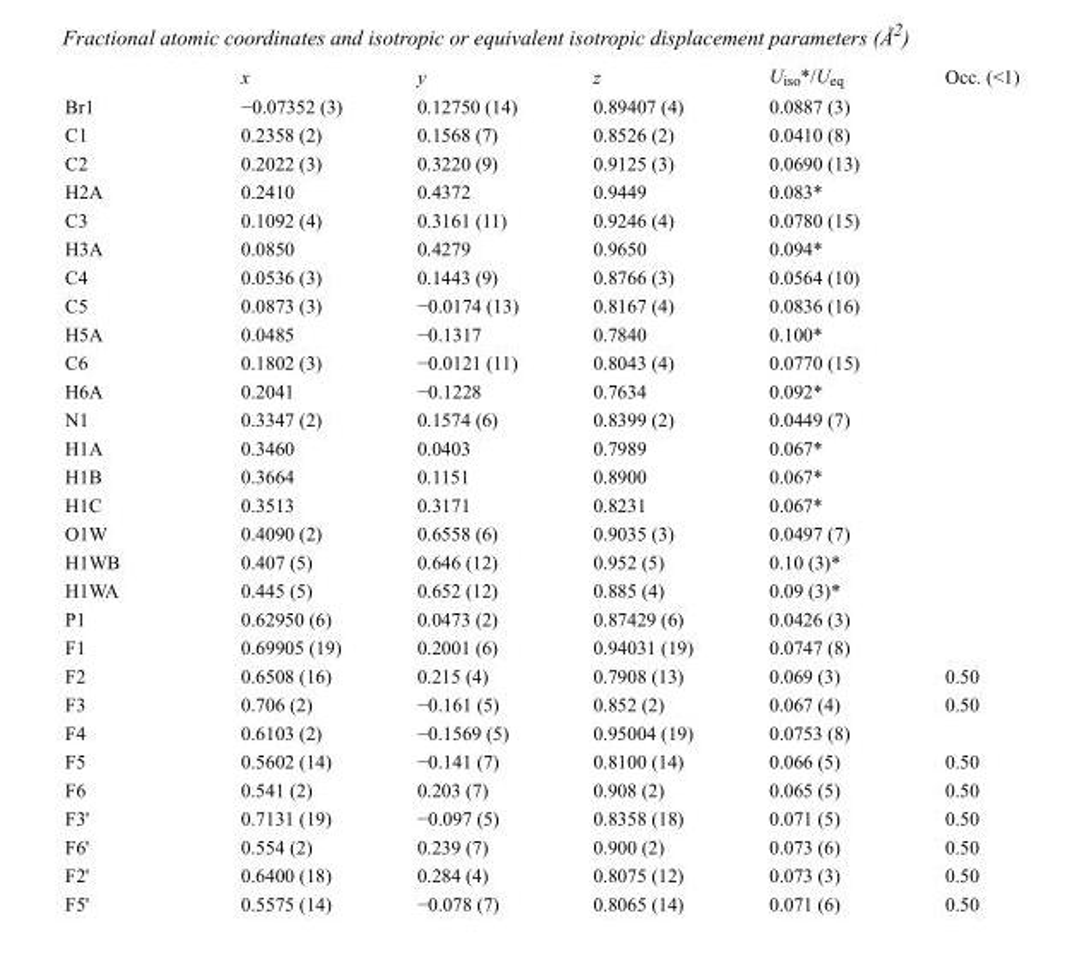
<table><thead><tr><td></td><td>x</td><td>y</td><td>z</td><td>U<sub>iso</sub>*/U<sub>eq</sub></td><td>Occ. (&lt;1)</td></tr></thead><tbody><tr><td>Br1</td><td>−0.07352 (3)</td><td>0.12750 (14)</td><td>0.89407 (4)</td><td>0.0887 (3)</td><td></td></tr><tr><td>C1</td><td>0.2358 (2)</td><td>0.1568 (7)</td><td>0.8526 (2)</td><td>0.0410 (8)</td><td></td></tr><tr><td>C2</td><td>0.2022 (3)</td><td>0.3220 (9)</td><td>0.9125 (3)</td><td>0.0690 (13)</td><td></td></tr><tr><td>H2A</td><td>0.2410</td><td>0.4372</td><td>0.9449</td><td>0.083*</td><td></td></tr><tr><td>C3</td><td>0.1092 (4)</td><td>0.3161 (11)</td><td>0.9246 (4)</td><td>0.0780 (15)</td><td></td></tr><tr><td>H3A</td><td>0.0850</td><td>0.4279</td><td>0.9650</td><td>0.094*</td><td></td></tr><tr><td>C4</td><td>0.0536 (3)</td><td>0.1443 (9)</td><td>0.8766 (3)</td><td>0.0564 (10)</td><td></td></tr><tr><td>C5</td><td>0.0873 (3)</td><td>−0.0174 (13)</td><td>0.8167 (4)</td><td>0.0836 (16)</td><td></td></tr><tr><td>H5A</td><td>0.0485</td><td>−0.1317</td><td>0.7840</td><td>0.100*</td><td></td></tr><tr><td>C6</td><td>0.1802 (3)</td><td>−0.0121 (11)</td><td>0.8043 (4)</td><td>0.0770 (15)</td><td></td></tr><tr><td>H6A</td><td>0.2041</td><td>−0.1228</td><td>0.7634</td><td>0.092*</td><td></td></tr><tr><td>N1</td><td>0.3347 (2)</td><td>0.1574 (6)</td><td>0.8399 (2)</td><td>0.0449 (7)</td><td></td></tr><tr><td>H1A</td><td>0.3460</td><td>0.0403</td><td>0.7989</td><td>0.067*</td><td></td></tr><tr><td>H1B</td><td>0.3664</td><td>0.1151</td><td>0.8900</td><td>0.067*</td><td></td></tr><tr><td>H1C</td><td>0.3513</td><td>0.3171</td><td>0.8231</td><td>0.067*</td><td></td></tr><tr><td>O1W</td><td>0.4090 (2)</td><td>0.6558 (6)</td><td>0.9035 (3)</td><td>0.0497 (7)</td><td></td></tr><tr><td>H1WB</td><td>0.407 (5)</td><td>0.646 (12)</td><td>0.952 (5)</td><td>0.10 (3)*</td><td></td></tr><tr><td>H1WA</td><td>0.445 (5)</td><td>0.652 (12)</td><td>0.885 (4)</td><td>0.09 (3)*</td><td></td></tr><tr><td>P1</td><td>0.62950 (6)</td><td>0.0473 (2)</td><td>0.87429 (6)</td><td>0.0426 (3)</td><td></td></tr><tr><td>F1</td><td>0.69905 (19)</td><td>0.2001 (6)</td><td>0.94031 (19)</td><td>0.0747 (8)</td><td></td></tr><tr><td>F2</td><td>0.6508 (16)</td><td>0.215 (4)</td><td>0.7908 (13)</td><td>0.069 (3)</td><td>0.50</td></tr><tr><td>F3</td><td>0.706 (2)</td><td>−0.161 (5)</td><td>0.852 (2)</td><td>0.067 (4)</td><td>0.50</td></tr><tr><td>F4</td><td>0.6103 (2)</td><td>−0.1569 (5)</td><td>0.95004 (19)</td><td>0.0753 (8)</td><td></td></tr><tr><td>F5</td><td>0.5602 (14)</td><td>−0.141 (7)</td><td>0.8100 (14)</td><td>0.066 (5)</td><td>0.50</td></tr><tr><td>F6</td><td>0.541 (2)</td><td>0.203 (7)</td><td>0.908 (2)</td><td>0.065 (5)</td><td>0.50</td></tr><tr><td>F3&#x27;</td><td>0.7131 (19)</td><td>−0.097 (5)</td><td>0.8358 (18)</td><td>0.071 (5)</td><td>0.50</td></tr><tr><td>F6&#x27;</td><td>0.554 (2)</td><td>0.239 (7)</td><td>0.900 (2)</td><td>0.073 (6)</td><td>0.50</td></tr><tr><td>F2&#x27;</td><td>0.6400 (18)</td><td>0.284 (4)</td><td>0.8075 (12)</td><td>0.073 (3)</td><td>0.50</td></tr><tr><td>F5&#x27;</td><td>0.5575 (14)</td><td>−0.078 (7)</td><td>0.8065 (14)</td><td>0.071 (6)</td><td>0.50</td></tr></tbody></table>